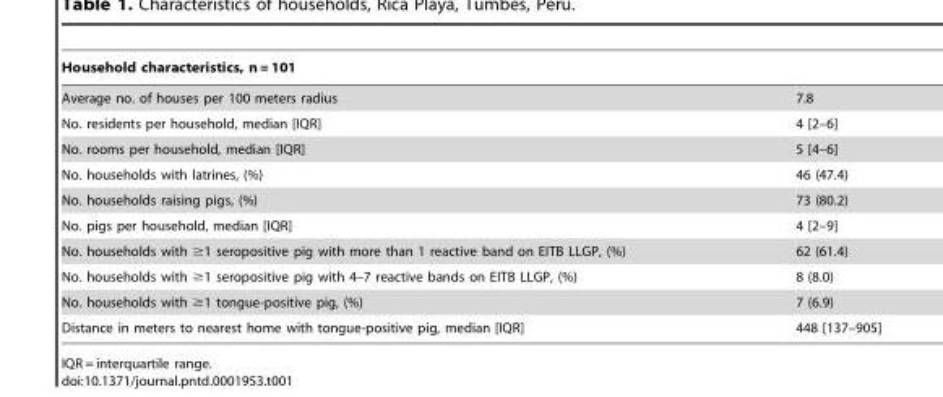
<table><thead><tr><td>Household characteristics, n = 101</td><td></td></tr></thead><tbody><tr><td>Average no. of houses per 100 meters radius</td><td>7.8</td></tr><tr><td>No. residents per household, median [IQR]</td><td>4 [2–6]</td></tr><tr><td>No. rooms per household, median [IQR]</td><td>5 [4–6]</td></tr><tr><td>No. households with latrines, (%)</td><td>46 (47.4)</td></tr><tr><td>No. households raising pigs, (%)</td><td>73 (80.2)</td></tr><tr><td>No. pigs per household, median [IQR]</td><td>4 [2–9]</td></tr><tr><td>No. households with ≥1 seropositive pig with more than 1 reactive band on EITB LLGP, (%)</td><td>62 (61.4)</td></tr><tr><td>No. households with ≥1 seropositive pig with 4–7 reactive bands on EITB LLGP, (%)</td><td>8 (8.0)</td></tr><tr><td>No. households with ≥1 tongue-positive pig, (%)</td><td>7 (6.9)</td></tr><tr><td>Distance in meters to nearest home with tongue-positive pig, median [IQR]</td><td>448 [137–905]</td></tr></tbody></table>